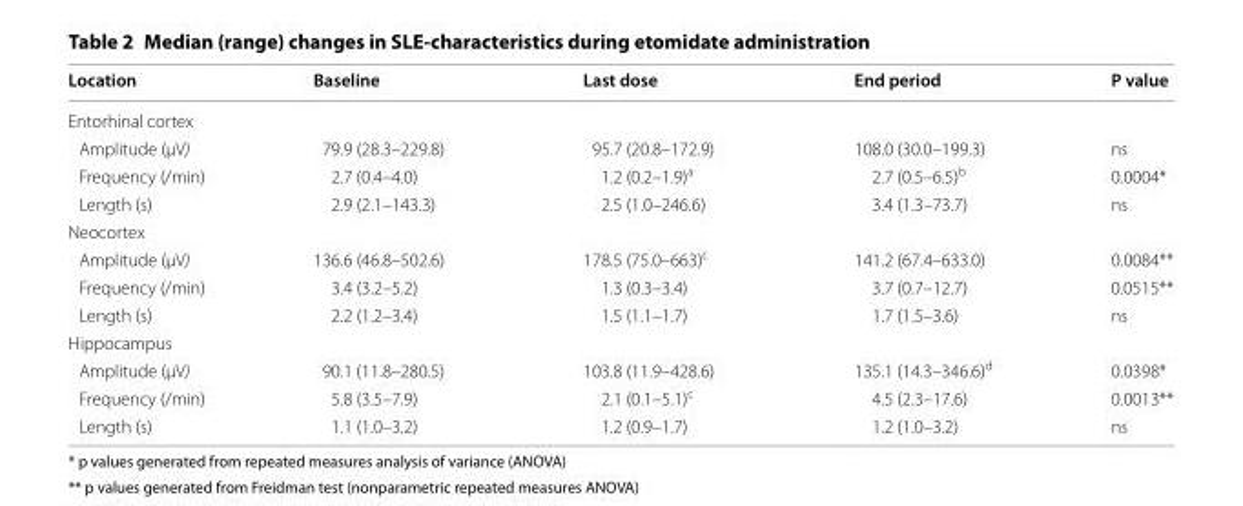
<table><thead><tr><td>Location</td><td>Baseline</td><td>Last dose</td><td>End period</td><td>P value</td></tr></thead><tbody><tr><td colspan="5">Entorhinal cortex</td></tr><tr><td>Amplitude (µV)</td><td>79.9 (28.3–229.8)</td><td>95.7 (20.8–172.9)</td><td>108.0 (30.0–199.3)</td><td>ns</td></tr><tr><td>Frequency (/min)</td><td>2.7 (0.4–4.0)</td><td>1.2 (0.2–1.9)<sup>a</sup></td><td>2.7 (0.5–6.5)<sup>b</sup></td><td>0.0004*</td></tr><tr><td>Length (s)</td><td>2.9 (2.1–143.3)</td><td>2.5 (1.0–246.6)</td><td>3.4 (1.3–73.7)</td><td>ns</td></tr><tr><td colspan="5">Neocortex</td></tr><tr><td>Amplitude (µV)</td><td>136.6 (46.8–502.6)</td><td>178.5 (75.0–663)<sup>c</sup></td><td>141.2 (67.4–633.0)</td><td>0.0084**</td></tr><tr><td>Frequency (/min)</td><td>3.4 (3.2–5.2)</td><td>1.3 (0.3–3.4)</td><td>3.7 (0.7–12.7)</td><td>0.0515**</td></tr><tr><td>Length (s)</td><td>2.2 (1.2–3.4)</td><td>1.5 (1.1–1.7)</td><td>1.7 (1.5–3.6)</td><td>ns</td></tr><tr><td colspan="5">Hippocampus</td></tr><tr><td>Amplitude (µV)</td><td>90.1 (11.8–280.5)</td><td>103.8 (11.9–428.6)</td><td>135.1 (14.3–346.6)<sup>d</sup></td><td>0.0398*</td></tr><tr><td>Frequency (/min)</td><td>5.8 (3.5–7.9)</td><td>2.1 (0.1–5.1)<sup>c</sup></td><td>4.5 (2.3–17.6)</td><td>0.0013**</td></tr><tr><td>Length (s)</td><td>1.1 (1.0–3.2)</td><td>1.2 (0.9–1.7)</td><td>1.2 (1.0–3.2)</td><td>ns</td></tr></tbody></table>